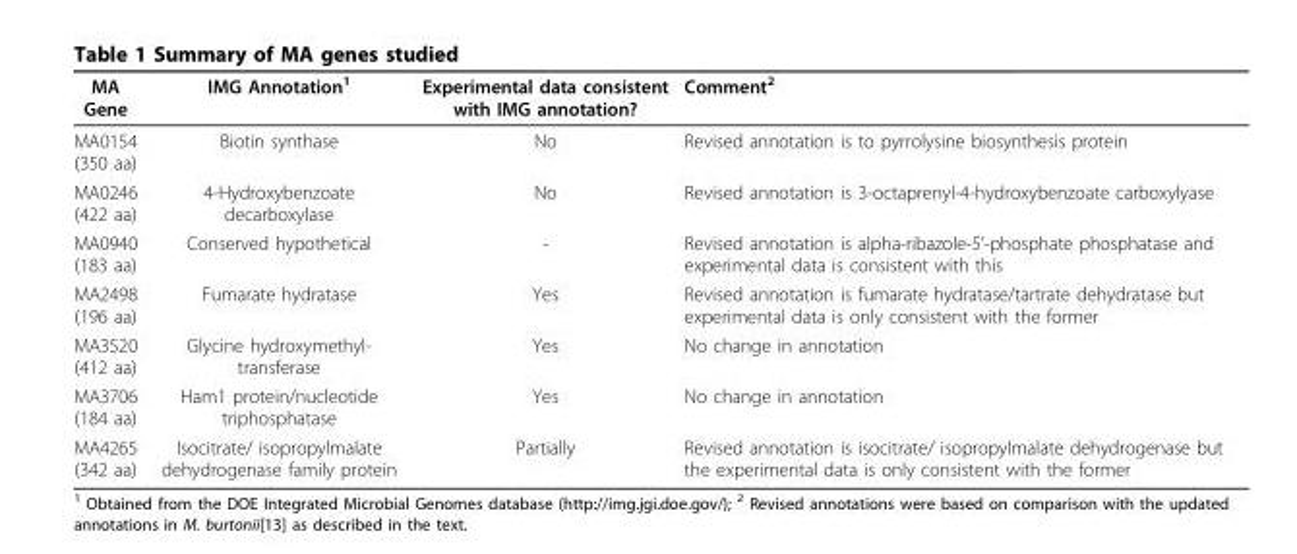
<table><thead><tr><td>MA Gene</td><td>IMG Annotation<sup>1</sup></td><td>Experimental data consistent with IMG annotation?</td><td>Comment<sup>2</sup></td></tr></thead><tbody><tr><td>MA0154 (350 aa)</td><td>Biotin synthase</td><td>No</td><td>Revised annotation is to pyrrolysine biosynthesis protein</td></tr><tr><td>MA0246 (422 aa)</td><td>4-Hydroxybenzoate decarboxylase</td><td>No</td><td>Revised annotation is 3-octaprenyl-4-hydroxybenzoate carboxylyase</td></tr><tr><td>MA0940 (183 aa)</td><td>Conserved hypothetical</td><td>-</td><td>Revised annotation is alpha-ribazole-5’-phosphate phosphatase and experimental data is consistent with this</td></tr><tr><td>MA2498 (196 aa)</td><td>Fumarate hydratase</td><td>Yes</td><td>Revised annotation is fumarate hydratase/tartrate dehydratase but experimental data is only consistent with the former</td></tr><tr><td>MA3520 (412 aa)</td><td>Glycine hydroxymethyl- transferase</td><td>Yes</td><td>No change in annotation</td></tr><tr><td>MA3706 (184 aa)</td><td>Ham1 protein/nucleotide triphosphatase</td><td>Yes</td><td>No change in annotation</td></tr><tr><td>MA4265 (342 aa)</td><td>Isocitrate/ isopropylmalate dehydrogenase family protein</td><td>Partially</td><td>Revised annotation is isocitrate/ isopropylmalate dehydrogenase but the experimental data is only consistent with the former</td></tr></tbody></table>